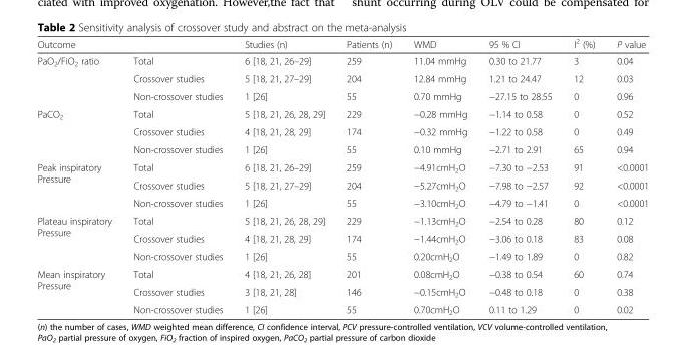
<table><thead><tr><td>Outcome</td><td></td><td>Studies (n)</td><td>Patients (n)</td><td>WMD</td><td>95 % CI</td><td>I<sup>2</sup> (%)</td><td>P value</td></tr></thead><tbody><tr><td rowspan="3">PaO<sub>2</sub>/FiO<sub>2</sub> ratio</td><td>Total</td><td>6 [18, 21, 26–29]</td><td>259</td><td>11.04 mmHg</td><td>0.30 to 21.77</td><td>3</td><td>0.04</td></tr><tr><td>Crossover studies</td><td>5 [18, 21, 27–29]</td><td>204</td><td>12.84 mmHg</td><td>1.21 to 24.47</td><td>12</td><td>0.03</td></tr><tr><td>Non-crossover studies</td><td>1 [26]</td><td>55</td><td>0.70 mmHg</td><td>−27.15 to 28.55</td><td>0</td><td>0.96</td></tr><tr><td rowspan="3">PaCO<sub>2</sub></td><td>Total</td><td>5 [18, 21, 26, 28, 29]</td><td>229</td><td>−0.28 mmHg</td><td>−1.14 to 0.58</td><td>0</td><td>0.52</td></tr><tr><td>Crossover studies</td><td>4 [18, 21, 28, 29]</td><td>174</td><td>−0.32 mmHg</td><td>−1.22 to 0.58</td><td>0</td><td>0.49</td></tr><tr><td>Non-crossover studies</td><td>1 [26]</td><td>55</td><td>0.10 mmHg</td><td>−2.71 to 2.91</td><td>65</td><td>0.94</td></tr><tr><td rowspan="3">Peak inspiratory Pressure</td><td>Total</td><td>6 [18, 21, 26–29]</td><td>259</td><td>−4.91cmH<sub>2</sub>O</td><td>−7.30 to −2.53</td><td>91</td><td>&lt;0.0001</td></tr><tr><td>Crossover studies</td><td>5 [18, 21, 27–29]</td><td>204</td><td>−5.27cmH<sub>2</sub>O</td><td>−7.98 to −2.57</td><td>92</td><td>&lt;0.0001</td></tr><tr><td>Non-crossover studies</td><td>1 [26]</td><td>55</td><td>−3.10cmH<sub>2</sub>O</td><td>−4.79 to −1.41</td><td>0</td><td>&lt;0.0001</td></tr><tr><td rowspan="3">Plateau inspiratory Pressure</td><td>Total</td><td>5 [18, 21, 26, 28, 29]</td><td>229</td><td>−1.13cmH<sub>2</sub>O</td><td>−2.54 to 0.28</td><td>80</td><td>0.12</td></tr><tr><td>Crossover studies</td><td>4 [18, 21, 28, 29]</td><td>174</td><td>−1.44cmH<sub>2</sub>O</td><td>−3.06 to 0.18</td><td>83</td><td>0.08</td></tr><tr><td>Non-crossover studies</td><td>1 [26]</td><td>55</td><td>0.20cmH<sub>2</sub>O</td><td>−1.49 to 1.89</td><td>0</td><td>0.82</td></tr><tr><td rowspan="3">Mean inspiratory Pressure</td><td>Total</td><td>4 [18, 21, 26, 28]</td><td>201</td><td>0.08cmH<sub>2</sub>O</td><td>−0.38 to 0.54</td><td>60</td><td>0.74</td></tr><tr><td>Crossover studies</td><td>3 [18, 21, 28]</td><td>146</td><td>−0.15cmH<sub>2</sub>O</td><td>−0.48 to 0.18</td><td>0</td><td>0.38</td></tr><tr><td>Non-crossover studies</td><td>1 [26]</td><td>55</td><td>0.70cmH<sub>2</sub>O</td><td>0.11 to 1.29</td><td>0</td><td>0.02</td></tr></tbody></table>